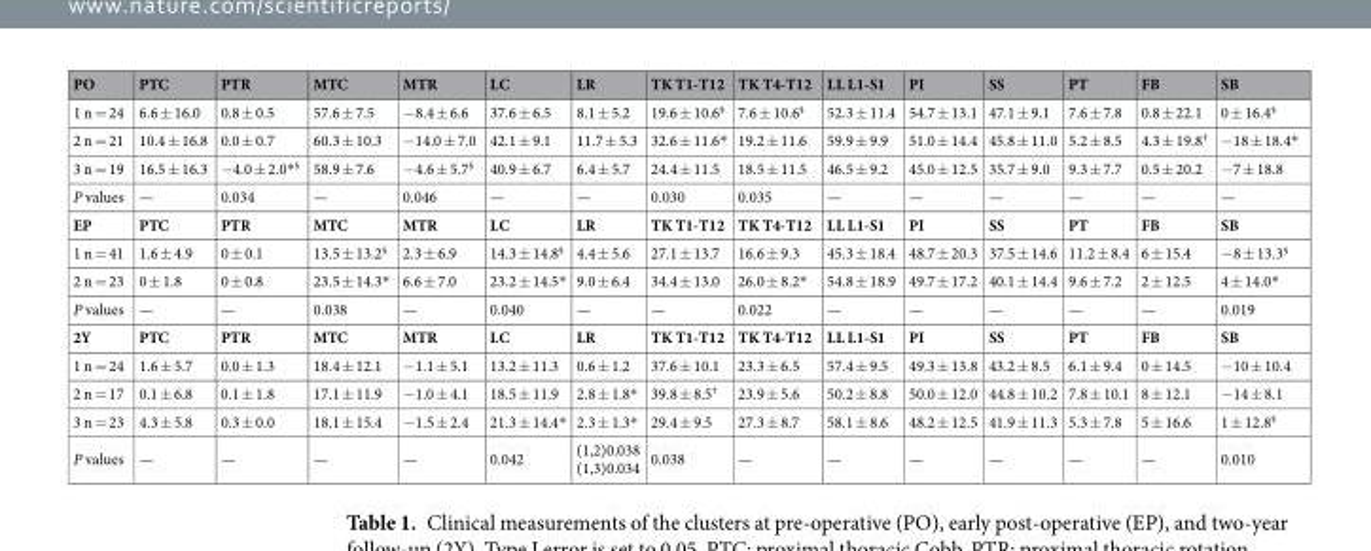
<table><thead><tr><td>PO</td><td>PTC</td><td>PTR</td><td>MTC</td><td>MTR</td><td>LC</td><td>LR</td><td>TK T1-T12</td><td>TK T4-T12</td><td>LL L1-S1</td><td>PI</td><td>SS</td><td>PT</td><td>FB</td><td>SB</td></tr></thead><tbody><tr><td>1 n = 24</td><td>6.6 ± 16.0</td><td>0.8 ± 0.5</td><td>57.6 ± 7.5</td><td>−8.4 ± 6.6</td><td>37.6 ± 6.5</td><td>8.1 ± 5.2</td><td>19.6 ± 10.6<sup>§</sup></td><td>7.6 ± 10.6<sup>§</sup></td><td>52.3 ± 11.4</td><td>54.7 ± 13.1</td><td>47.1 ± 9.1</td><td>7.6 ± 7.8</td><td>0.8 ± 22.1</td><td>0 ± 16.4<sup>§</sup></td></tr><tr><td>2 n = 21</td><td>10.4 ± 16.8</td><td>0.0 ± 0.7</td><td>60.3 ± 10.3</td><td>−14.0 ± 7.0</td><td>42.1 ± 9.1</td><td>11.7 ± 5.3</td><td>32.6 ± 11.6*</td><td>19.2 ± 11.6</td><td>59.9 ± 9.9</td><td>51.0 ± 14.4</td><td>45.8 ± 11.0</td><td>5.2 ± 8.5</td><td>4.3 ± 19.8<sup>†</sup></td><td>−18 ± 18.4*</td></tr><tr><td>3 n = 19</td><td>16.5 ± 16.3</td><td>−4.0 ± 2.0*<sup>§</sup></td><td>58.9 ± 7.6</td><td>−4.6 ± 5.7<sup>§</sup></td><td>40.9 ± 6.7</td><td>6.4 ± 5.7</td><td>24.4 ± 11.5</td><td>18.5 ± 11.5</td><td>46.5 ± 9.2</td><td>45.0 ± 12.5</td><td>35.7 ± 9.0</td><td>9.3 ± 7.7</td><td>0.5 ± 20.2</td><td>−7 ± 18.8</td></tr><tr><td>P values</td><td>—</td><td>0.034</td><td>—</td><td>0.046</td><td>—</td><td>—</td><td>0.030</td><td>0.035</td><td>—</td><td>—</td><td>—</td><td>—</td><td>—</td><td>—</td></tr><tr><td>EP</td><td>PTC</td><td>PTR</td><td>MTC</td><td>MTR</td><td>LC</td><td>LR</td><td>TK T1-T12</td><td>TK T4-T12</td><td>LL L1-S1</td><td>PI</td><td>SS</td><td>PT</td><td>FB</td><td>SB</td></tr><tr><td>1 n = 41</td><td>1.6 ± 4.9</td><td>0 ± 0.1</td><td>13.5 ± 13.2<sup>§</sup></td><td>2.3 ± 6.9</td><td>14.3 ± 14.8<sup>§</sup></td><td>4.4 ± 5.6</td><td>27.1 ± 13.7</td><td>16.6 ± 9.3</td><td>45.3 ± 18.4</td><td>48.7 ± 20.3</td><td>37.5 ± 14.6</td><td>11.2 ± 8.4</td><td>6 ± 15.4</td><td>−8 ± 13.3<sup>§</sup></td></tr><tr><td>2 n = 23</td><td>0 ± 1.8</td><td>0 ± 0.8</td><td>23.5 ± 14.3*</td><td>6.6 ± 7.0</td><td>23.2 ± 14.5*</td><td>9.0 ± 6.4</td><td>34.4 ± 13.0</td><td>26.0 ± 8.2*</td><td>54.8 ± 18.9</td><td>49.7 ± 17.2</td><td>40.1 ± 14.4</td><td>9.6 ± 7.2</td><td>2 ± 12.5</td><td>4 ± 14.0*</td></tr><tr><td>P values</td><td>—</td><td>—</td><td>0.038</td><td>—</td><td>0.040</td><td>—</td><td>—</td><td>0.022</td><td>—</td><td>—</td><td>—</td><td>—</td><td>—</td><td>0.019</td></tr><tr><td>2Y</td><td>PTC</td><td>PTR</td><td>MTC</td><td>MTR</td><td>LC</td><td>LR</td><td>TK T1-T12</td><td>TK T4-T12</td><td>LL L1-S1</td><td>PI</td><td>SS</td><td>PT</td><td>FB</td><td>SB</td></tr><tr><td>1 n = 24</td><td>1.6 ± 5.7</td><td>0.0 ± 1.3</td><td>18.4 ± 12.1</td><td>−1.1 ± 5.1</td><td>13.2 ± 11.3</td><td>0.6 ± 1.2</td><td>37.6 ± 10.1</td><td>23.3 ± 6.5</td><td>57.4 ± 9.5</td><td>49.3 ± 13.8</td><td>43.2 ± 8.5</td><td>6.1 ± 9.4</td><td>0 ± 14.5</td><td>−10 ± 10.4</td></tr><tr><td>2 n = 17</td><td>0.1 ± 6.8</td><td>0.1 ± 1.8</td><td>17.1 ± 11.9</td><td>−1.0 ± 4.1</td><td>18.5 ± 11.9</td><td>2.8 ± 1.8*</td><td>39.8 ± 8.5<sup>†</sup></td><td>23.9 ± 5.6</td><td>50.2 ± 8.8</td><td>50.0 ± 12.0</td><td>44.8 ± 10.2</td><td>7.8 ± 10.1</td><td>8 ± 12.1</td><td>−14 ± 8.1</td></tr><tr><td>3 n = 23</td><td>4.3 ± 5.8</td><td>0.3 ± 0.0</td><td>18.1 ± 15.4</td><td>−1.5 ± 2.4</td><td>21.3 ± 14.4*</td><td>2.3 ± 1.3*</td><td>29.4 ± 9.5</td><td>27.3 ± 8.7</td><td>58.1 ± 8.6</td><td>48.2 ± 12.5</td><td>41.9 ± 11.3</td><td>5.3 ± 7.8</td><td>5 ± 16.6</td><td>1 ± 12.8<sup>§</sup></td></tr><tr><td>P values</td><td>—</td><td>—</td><td>—</td><td>—</td><td>0.042</td><td>(1,2)0.038 (1,3)0.034</td><td>0.038</td><td>—</td><td>—</td><td>—</td><td>—</td><td>—</td><td>—</td><td>0.010</td></tr></tbody></table>